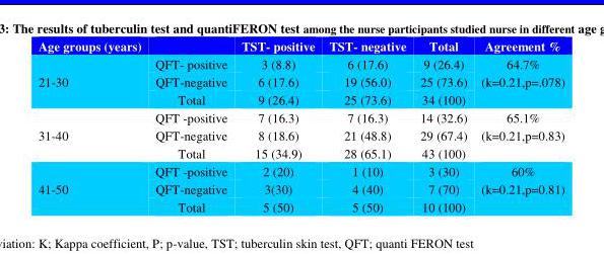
<table><thead><tr><td>Age groups (years)</td><td></td><td>TST- positive</td><td>TST- negative</td><td>Total</td><td>Agreement %</td></tr></thead><tbody><tr><td rowspan="3">21-30</td><td>QFT- positive</td><td>3 (8.8)</td><td>6 (17.6)</td><td>9 (26.4)</td><td rowspan="3">64.7% (k=0.21,p=.078)</td></tr><tr><td>QFT-negative</td><td>6 (17.6)</td><td>19 (56.0)</td><td>25 (73.6)</td></tr><tr><td>Total</td><td>9 (26.4)</td><td>25 (73.6)</td><td>34 (100)</td></tr><tr><td rowspan="3">31-40</td><td>QFT -positive</td><td>7 (16.3)</td><td>7 (16.3)</td><td>14 (32.6)</td><td rowspan="3">65.1% (k=0.21,p=0.83)</td></tr><tr><td>QFT-negative</td><td>8 (18.6)</td><td>21 (48.8)</td><td>29 (67.4)</td></tr><tr><td>Total</td><td>15 (34.9)</td><td>28 (65.1)</td><td>43 (100)</td></tr><tr><td rowspan="3">41-50</td><td>QFT -positive</td><td>2 (20)</td><td>1 (10)</td><td>3 (30)</td><td rowspan="3">60% (k=0.21,p=0.81)</td></tr><tr><td>QFT-negative</td><td>3(30)</td><td>4 (40)</td><td>7 (70)</td></tr><tr><td>Total</td><td>5 (50)</td><td>5 (50)</td><td>10 (100)</td></tr></tbody></table>